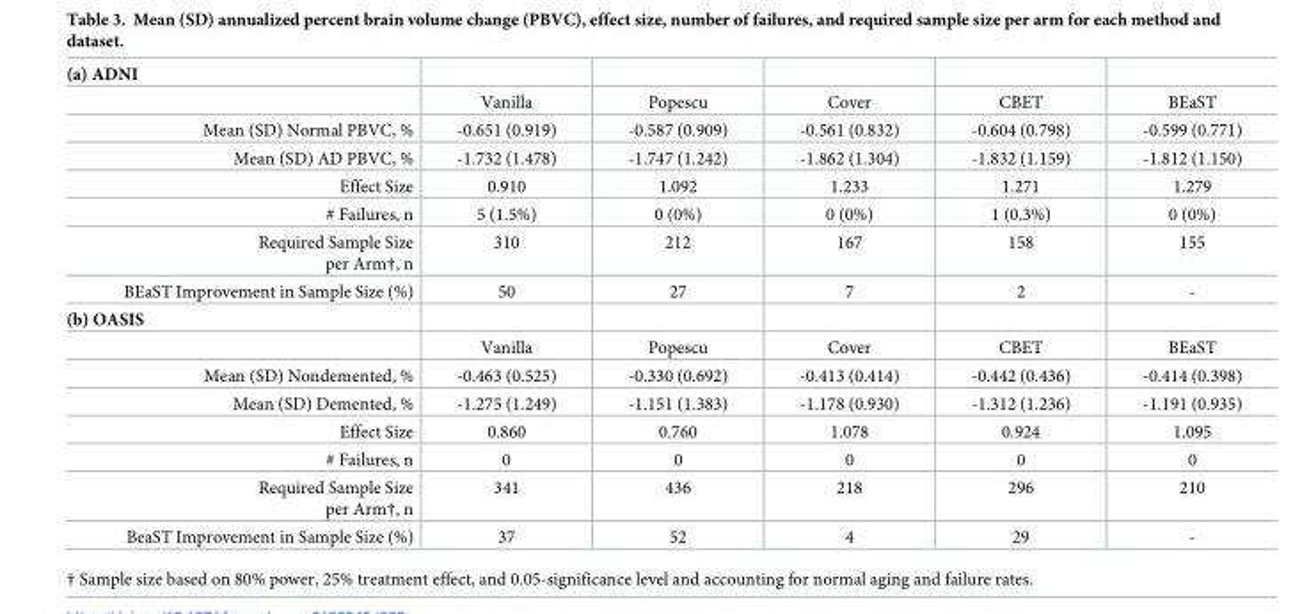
<table><tbody><tr><td colspan="6">(a) ADNI</td></tr><tr><td></td><td>Vanilla</td><td>Popescu</td><td>Cover</td><td>CBET</td><td>BEaST</td></tr><tr><td>Mean (SD) Normal PBVC, %</td><td>-0.651 (0.919)</td><td>-0.587 (0.909)</td><td>-0.561 (0.832)</td><td>-0.604 (0.798)</td><td>-0.599 (0.771)</td></tr><tr><td>Mean (SD) AD PBVC, %</td><td>-1.732 (1.478)</td><td>-1.747 (1.242)</td><td>-1.862 (1.304)</td><td>-1.832 (1.159)</td><td>-1.812 (1.150)</td></tr><tr><td>Effect Size</td><td>0.910</td><td>1.092</td><td>1.233</td><td>1.271</td><td>1.279</td></tr><tr><td># Failures, n</td><td>5 (1.5%)</td><td>0 (0%)</td><td>0 (0%)</td><td>1 (0.3%)</td><td>0 (0%)</td></tr><tr><td>Required Sample Size per Arm†, n</td><td>310</td><td>212</td><td>167</td><td>158</td><td>155</td></tr><tr><td>BEaST Improvement in Sample Size (%)</td><td>50</td><td>27</td><td>7</td><td>2</td><td>-</td></tr><tr><td colspan="6">(b) OASIS</td></tr><tr><td></td><td>Vanilla</td><td>Popescu</td><td>Cover</td><td>CBET</td><td>BEaST</td></tr><tr><td>Mean (SD) Nondemented, %</td><td>-0.463 (0.525)</td><td>-0.330 (0.692)</td><td>-0.413 (0.414)</td><td>-0.442 (0.436)</td><td>-0.414 (0.398)</td></tr><tr><td>Mean (SD) Demented, %</td><td>-1.275 (1.249)</td><td>-1.151 (1.383)</td><td>-1.178 (0.930)</td><td>-1.312 (1.236)</td><td>-1.191 (0.935)</td></tr><tr><td>Effect Size</td><td>0.860</td><td>0.760</td><td>1.078</td><td>0.924</td><td>1.095</td></tr><tr><td># Failures, n</td><td>0</td><td>0</td><td>0</td><td>0</td><td>0</td></tr><tr><td>Required Sample Size per Arm†, n</td><td>341</td><td>436</td><td>218</td><td>296</td><td>210</td></tr><tr><td>BeaST Improvement in Sample Size (%)</td><td>37</td><td>52</td><td>4</td><td>29</td><td>-</td></tr></tbody></table>